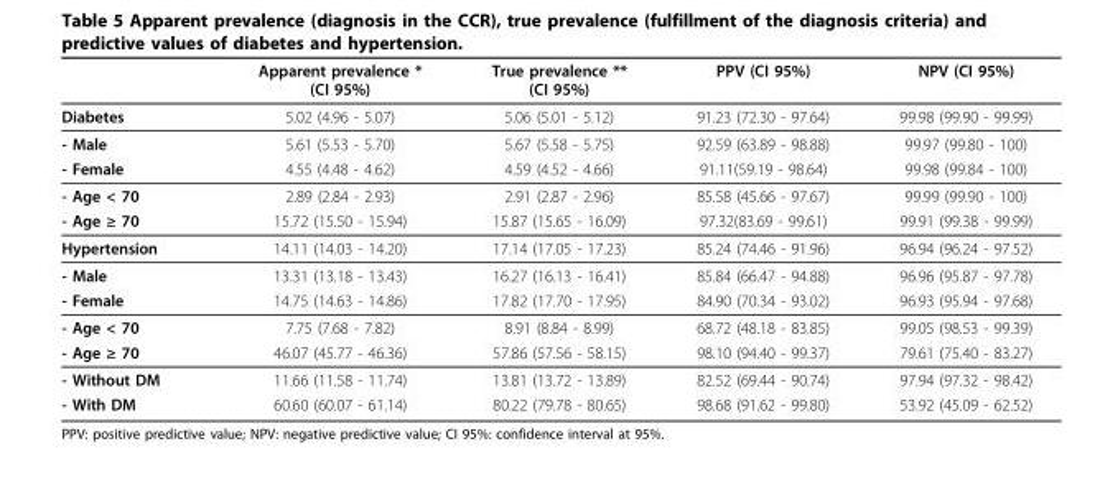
<table><thead><tr><td></td><td>Apparent prevalence * (CI 95%)</td><td>True prevalence ** (CI 95%)</td><td>PPV (CI 95%)</td><td>NPV (CI 95%)</td></tr></thead><tbody><tr><td>Diabetes</td><td>5.02 (4.96 - 5.07)</td><td>5.06 (5.01 - 5.12)</td><td>91.23 (72.30 - 97.64)</td><td>99.98 (99.90 - 99.99)</td></tr><tr><td>- Male</td><td>5.61 (5.53 - 5.70)</td><td>5.67 (5.58 - 5.75)</td><td>92.59 (63.89 - 98.88)</td><td>99.97 (99.80 - 100)</td></tr><tr><td>- Female</td><td>4.55 (4.48 - 4.62)</td><td>4.59 (4.52 - 4.66)</td><td>91.11(59.19 - 98.64)</td><td>99.98 (99.84 - 100)</td></tr><tr><td>- Age &lt; 70</td><td>2.89 (2.84 - 2.93)</td><td>2.91 (2.87 - 2.96)</td><td>85.58 (45.66 - 97.67)</td><td>99.99 (99.90 - 100)</td></tr><tr><td>- Age ≥ 70</td><td>15.72 (15.50 - 15.94)</td><td>15.87 (15.65 - 16.09)</td><td>97.32(83.69 - 99.61)</td><td>99.91 (99.38 - 99.99)</td></tr><tr><td>Hypertension</td><td>14.11 (14.03 - 14.20)</td><td>17.14 (17.05 - 17.23)</td><td>85.24 (74.46 - 91.96)</td><td>96.94 (96.24 - 97.52)</td></tr><tr><td>- Male</td><td>13.31 (13.18 - 13.43)</td><td>16.27 (16.13 - 16.41)</td><td>85.84 (66.47 - 94.88)</td><td>96.96 (95.87 - 97.78)</td></tr><tr><td>- Female</td><td>14.75 (14.63 - 14.86)</td><td>17.82 (17.70 - 17.95)</td><td>84.90 (70.34 - 93.02)</td><td>96.93 (95.94 - 97.68)</td></tr><tr><td>- Age &lt; 70</td><td>7.75 (7.68 - 7.82)</td><td>8.91 (8.84 - 8.99)</td><td>68.72 (48.18 - 83.85)</td><td>99.05 (98.53 - 99.39)</td></tr><tr><td>- Age ≥ 70</td><td>46.07 (45.77 - 46.36)</td><td>57.86 (57.56 - 58.15)</td><td>98.10 (94.40 - 99.37)</td><td>79.61 (75.40 - 83.27)</td></tr><tr><td>- Without DM</td><td>11.66 (11.58 - 11.74)</td><td>13.81 (13.72 - 13.89)</td><td>82.52 (69.44 - 90.74)</td><td>97.94 (97.32 - 98.42)</td></tr><tr><td>- With DM</td><td>60.60 (60.07 - 61.14)</td><td>80.22 (79.78 - 80.65)</td><td>98.68 (91.62 - 99.80)</td><td>53.92 (45.09 - 62.52)</td></tr></tbody></table>